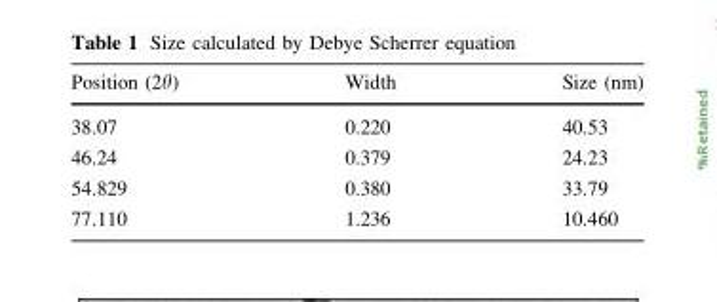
<table><thead><tr><td>Position (2θ)</td><td>Width</td><td>Size (nm)</td></tr></thead><tbody><tr><td>38.07</td><td>0.220</td><td>40.53</td></tr><tr><td>46.24</td><td>0.379</td><td>24.23</td></tr><tr><td>54.829</td><td>0.380</td><td>33.79</td></tr><tr><td>77.110</td><td>1.236</td><td>10.460</td></tr></tbody></table>